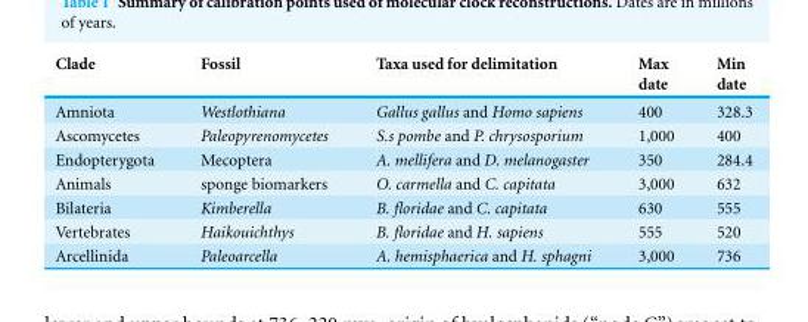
<table><thead><tr><td>Clade</td><td>Fossil</td><td>Taxa used for delimitation</td><td>Max date</td><td>Min date</td></tr></thead><tbody><tr><td>Amniota</td><td>Westlothiana</td><td>Gallus gallus and Homo sapiens</td><td>400</td><td>328.3</td></tr><tr><td>Ascomycetes</td><td>Paleopyrenomycetes</td><td>S.s pombe and P. chrysosporium</td><td>1,000</td><td>400</td></tr><tr><td>Endopterygota</td><td>Mecoptera</td><td>A. mellifera and D. melanogaster</td><td>350</td><td>284.4</td></tr><tr><td>Animals</td><td>sponge biomarkers</td><td>O. carmella and C. capitata</td><td>3,000</td><td>632</td></tr><tr><td>Bilateria</td><td>Kimberella</td><td>B. floridae and C. capitata</td><td>630</td><td>555</td></tr><tr><td>Vertebrates</td><td>Haikouichthys</td><td>B. floridae and H. sapiens</td><td>555</td><td>520</td></tr><tr><td>Arcellinida</td><td>Paleoarcella</td><td>A. hemisphaerica and H. sphagni</td><td>3,000</td><td>736</td></tr></tbody></table>